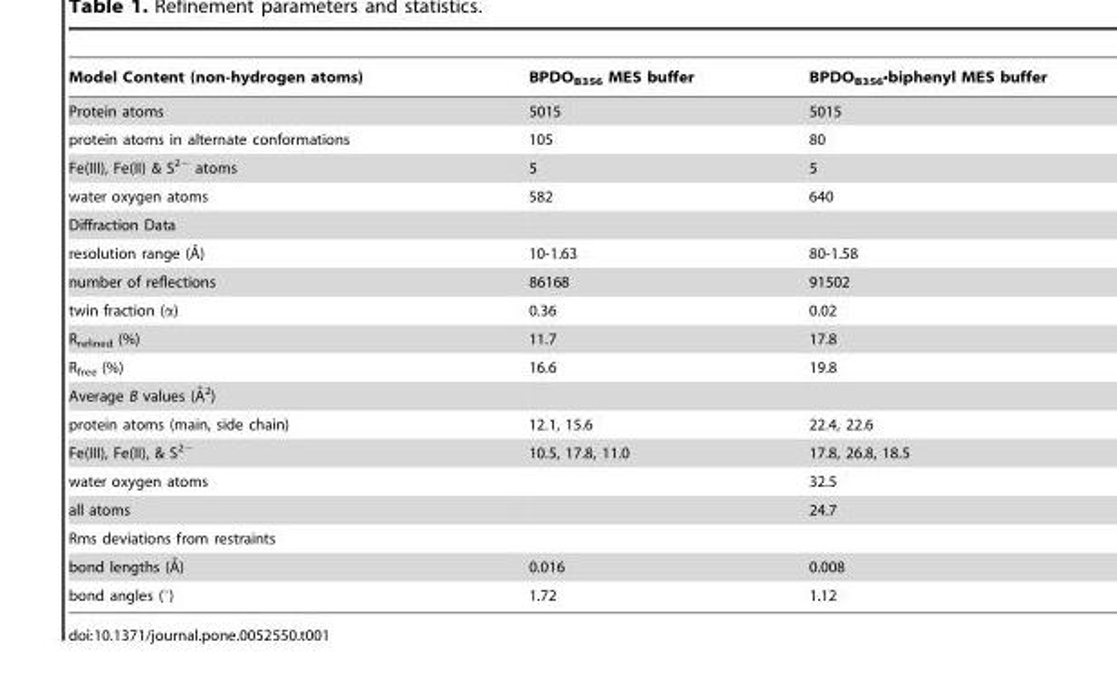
<table><thead><tr><td>Model Content (non-hydrogen atoms)</td><td>BPDO<sub>B356</sub> MES buffer</td><td>BPDO<sub>B356</sub>•biphenyl MES buffer</td></tr></thead><tbody><tr><td>Protein atoms</td><td>5015</td><td>5015</td></tr><tr><td>protein atoms in alternate conformations</td><td>105</td><td>80</td></tr><tr><td>Fe(III), Fe(II) &amp; S<sup>2−</sup> atoms</td><td>5</td><td>5</td></tr><tr><td>water oxygen atoms</td><td>582</td><td>640</td></tr><tr><td colspan="3">Diffraction Data</td></tr><tr><td>resolution range (A˚)</td><td>10-1.63</td><td>80-1.58</td></tr><tr><td>number of reflections</td><td>86168</td><td>91502</td></tr><tr><td>twin fraction (α)</td><td>0.36</td><td>0.02</td></tr><tr><td>R<sub>refined</sub> (%)</td><td>11.7</td><td>17.8</td></tr><tr><td>R<sub>free</sub> (%)</td><td>16.6</td><td>19.8</td></tr><tr><td colspan="3">Average B values (A˚2)</td></tr><tr><td>protein atoms (main, side chain)</td><td>12.1, 15.6</td><td>22.4, 22.6</td></tr><tr><td>Fe(III), Fe(II), &amp; S<sup>2−</sup></td><td>10.5, 17.8, 11.0</td><td>17.8, 26.8, 18.5</td></tr><tr><td>water oxygen atoms</td><td></td><td>32.5</td></tr><tr><td>all atoms</td><td></td><td>24.7</td></tr><tr><td colspan="3">Rms deviations from restraints</td></tr><tr><td>bond lengths (A˚)</td><td>0.016</td><td>0.008</td></tr><tr><td>bond angles (°)</td><td>1.72</td><td>1.12</td></tr></tbody></table>